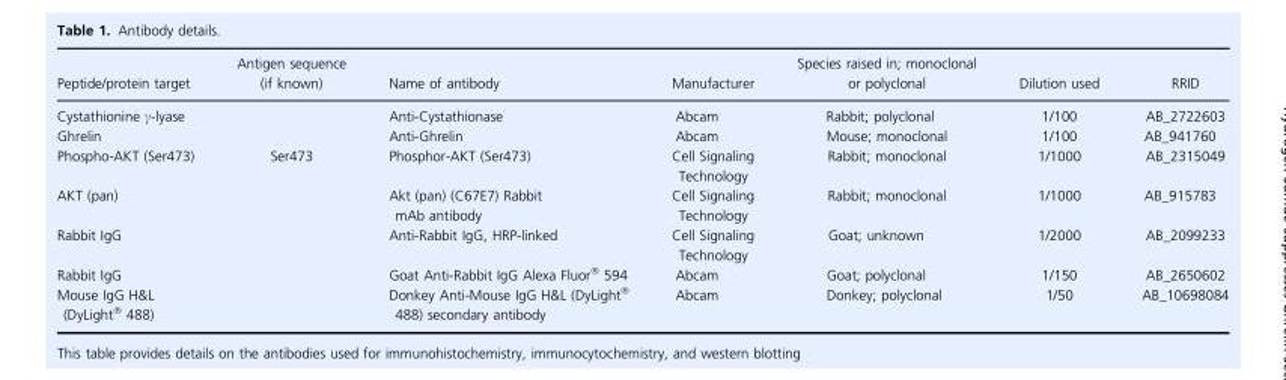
<table><thead><tr><td>Peptide/protein target</td><td>Antigen sequence (if known)</td><td>Name of antibody</td><td>Manufacturer</td><td>Species raised in; monoclonal or polyclonal</td><td>Dilution used</td><td>RRID</td></tr></thead><tbody><tr><td>Cystathionine γ-lyase</td><td></td><td>Anti-Cystathionase</td><td>Abcam</td><td>Rabbit; polyclonal</td><td>1/100</td><td>AB_2722603</td></tr><tr><td>Ghrelin</td><td></td><td>Anti-Ghrelin</td><td>Abcam</td><td>Mouse; monoclonal</td><td>1/100</td><td>AB_941760</td></tr><tr><td>Phospho-AKT (Ser473)</td><td>Ser473</td><td>Phosphor-AKT (Ser473)</td><td>Cell Signaling Technology</td><td>Rabbit; monoclonal</td><td>1/1000</td><td>AB_2315049</td></tr><tr><td>AKT (pan)</td><td></td><td>Akt (pan) (C67E7) Rabbit mAb antibody</td><td>Cell Signaling Technology</td><td>Rabbit; monoclonal</td><td>1/1000</td><td>AB_915783</td></tr><tr><td>Rabbit IgG</td><td></td><td>Anti-Rabbit IgG, HRP-linked</td><td>Cell Signaling Technology</td><td>Goat; unknown</td><td>1/2000</td><td>AB_2099233</td></tr><tr><td>Rabbit IgG</td><td></td><td>Goat Anti-Rabbit IgG Alexa Fluor<sup>®</sup> 594</td><td>Abcam</td><td>Goat; polyclonal</td><td>1/150</td><td>AB_2650602</td></tr><tr><td>Mouse IgG H&amp;L (DyLight<sup>®</sup> 488)</td><td></td><td>Donkey Anti-Mouse IgG H&amp;L (DyLight<sup>®</sup> 488) secondary antibody</td><td>Abcam</td><td>Donkey; polyclonal</td><td>1/50</td><td>AB_10698084</td></tr></tbody></table>